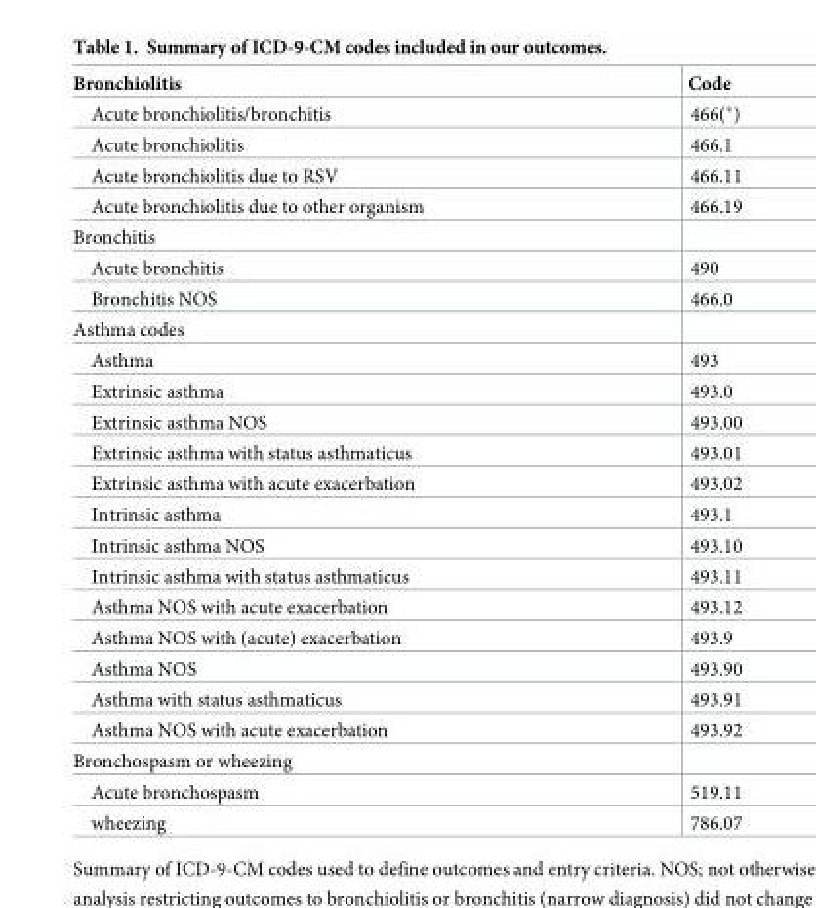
<table><thead><tr><td>Bronchiolitis</td><td>Code</td></tr></thead><tbody><tr><td>Acute bronchiolitis/bronchitis</td><td>466(*)</td></tr><tr><td>Acute bronchiolitis</td><td>466.1</td></tr><tr><td>Acute bronchiolitis due to RSV</td><td>466.11</td></tr><tr><td>Acute bronchiolitis due to other organism</td><td>466.19</td></tr><tr><td colspan="2">Bronchitis</td></tr><tr><td>Acute bronchitis</td><td>490</td></tr><tr><td>Bronchitis NOS</td><td>466.0</td></tr><tr><td colspan="2">Asthma codes</td></tr><tr><td>Asthma</td><td>493</td></tr><tr><td>Extrinsic asthma</td><td>493.0</td></tr><tr><td>Extrinsic asthma NOS</td><td>493.00</td></tr><tr><td>Extrinsic asthma with status asthmaticus</td><td>493.01</td></tr><tr><td>Extrinsic asthma with acute exacerbation</td><td>493.02</td></tr><tr><td>Intrinsic asthma</td><td>493.1</td></tr><tr><td>Intrinsic asthma NOS</td><td>493.10</td></tr><tr><td>Intrinsic asthma with status asthmaticus</td><td>493.11</td></tr><tr><td>Asthma NOS with acute exacerbation</td><td>493.12</td></tr><tr><td>Asthma NOS with (acute) exacerbation</td><td>493.9</td></tr><tr><td>Asthma NOS</td><td>493.90</td></tr><tr><td>Asthma with status asthmaticus</td><td>493.91</td></tr><tr><td>Asthma NOS with acute exacerbation</td><td>493.92</td></tr><tr><td colspan="2">Bronchospasm or wheezing</td></tr><tr><td>Acute bronchospasm</td><td>519.11</td></tr><tr><td>wheezing</td><td>786.07</td></tr></tbody></table>